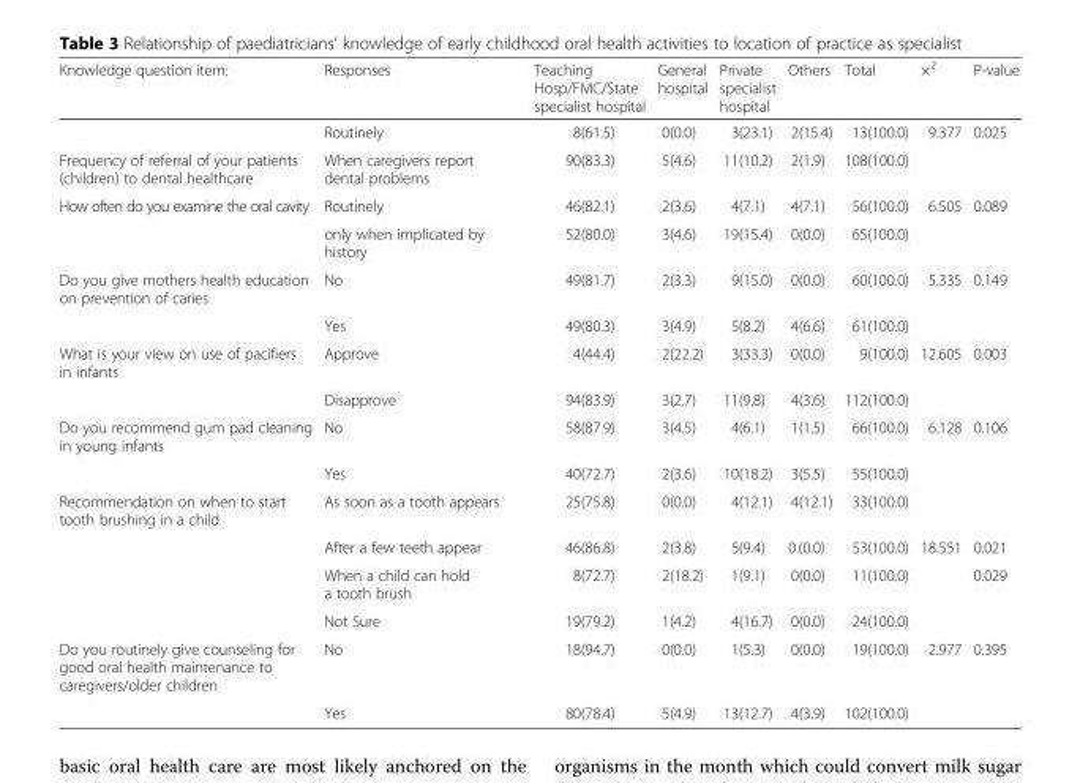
<table><thead><tr><td>Knowledge question item:</td><td>Responses</td><td>Teaching Hosp/FMC/State specialist hospital</td><td>General hospital</td><td>Private specialist hospital</td><td>Others</td><td>Total</td><td>×<sup>2</sup></td><td>P-value</td></tr></thead><tbody><tr><td></td><td>Routinely</td><td>8(61.5)</td><td>0(0.0)</td><td>3(23.1)</td><td>2(15.4)</td><td>13(100.0)</td><td>9.377</td><td>0.025</td></tr><tr><td>Frequency of referral of your patients (children) to dental healthcare</td><td>When caregivers report dental problems</td><td>90(83.3)</td><td>5(4.6)</td><td>11(10.2)</td><td>2(1.9)</td><td>108(100.0)</td><td></td><td></td></tr><tr><td rowspan="2">How often do you examine the oral cavity</td><td>Routinely</td><td>46(82.1)</td><td>2(3.6)</td><td>4(7.1)</td><td>4(7.1)</td><td>56(100.0)</td><td>6.505</td><td>0.089</td></tr><tr><td>only when implicated by history</td><td>52(80.0)</td><td>3(4.6)</td><td>19(15.4)</td><td>0(0.0)</td><td>65(100.0)</td><td></td><td></td></tr><tr><td rowspan="2">Do you give mothers health education on prevention of caries</td><td>No</td><td>49(81.7)</td><td>2(3.3)</td><td>9(15.0)</td><td>0(0.0)</td><td>60(100.0)</td><td>5.335</td><td>0.149</td></tr><tr><td>Yes</td><td>49(80.3)</td><td>3(4.9)</td><td>5(8.2)</td><td>4(6.6)</td><td>61(100.0)</td><td></td><td></td></tr><tr><td rowspan="2">What is your view on use of pacifiers in infants</td><td>Approve</td><td>4(44.4)</td><td>2(22.2)</td><td>3(33.3)</td><td>0(0.0)</td><td>9(100.0)</td><td>12.605</td><td>0.003</td></tr><tr><td>Disapprove</td><td>94(83.9)</td><td>3(2.7)</td><td>11(9.8)</td><td>4(3.6)</td><td>112(100.0)</td><td></td><td></td></tr><tr><td rowspan="2">Do you recommend gum pad cleaning in young infants</td><td>No</td><td>58(87.9)</td><td>3(4.5)</td><td>4(6.1)</td><td>1(1.5)</td><td>66(100.0)</td><td>6.128</td><td>0.106</td></tr><tr><td>Yes</td><td>40(72.7)</td><td>2(3.6)</td><td>10(18.2)</td><td>3(5.5)</td><td>55(100.0)</td><td></td><td></td></tr><tr><td rowspan="4">Recommendation on when to start tooth brushing in a child</td><td>As soon as a tooth appears</td><td>25(75.8)</td><td>0(0.0)</td><td>4(12.1)</td><td>4(12.1)</td><td>33(100.0)</td><td></td><td></td></tr><tr><td>After a few teeth appear</td><td>46(86.8)</td><td>2(3.8)</td><td>5(9.4)</td><td>0.(0.0)</td><td>53(100.0)</td><td>18.551</td><td>0.021</td></tr><tr><td>When a child can hold a tooth brush</td><td>8(72.7)</td><td>2(18.2)</td><td>1(9.1)</td><td>0(0.0)</td><td>11(100.0)</td><td></td><td>0.029</td></tr><tr><td>Not Sure</td><td>19(79.2)</td><td>1(4.2)</td><td>4(16.7)</td><td>0(0.0)</td><td>24(100.0)</td><td></td><td></td></tr><tr><td rowspan="2">Do you routinely give counseling for good oral health maintenance to caregivers/older children</td><td>No</td><td>18(94.7)</td><td>0(0.0)</td><td>1(5.3)</td><td>0(0.0)</td><td>19(100.0)</td><td>2.977</td><td>0.395</td></tr><tr><td>Yes</td><td>80(78.4)</td><td>5(4.9)</td><td>13(12.7)</td><td>4(3.9)</td><td>102(100.0)</td><td></td><td></td></tr></tbody></table>